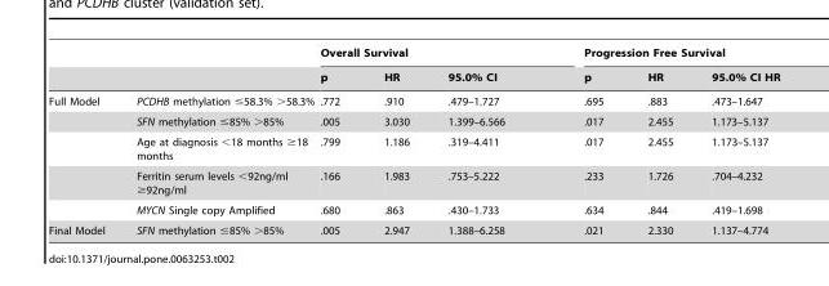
<table><thead><tr><td rowspan="2"></td><td rowspan="2"></td><td colspan="3">Overall Survival</td><td colspan="3">Progression Free Survival</td></tr><tr><td>p</td><td>HR</td><td>95.0% CI</td><td>p</td><td>HR</td><td>95.0% CI HR</td></tr></thead><tbody><tr><td rowspan="5">Full Model</td><td>PCDHB methylation ≤58.3% &gt;58.3%</td><td>.772</td><td>.910</td><td>.479–1.727</td><td>.695</td><td>.883</td><td>.473–1.647</td></tr><tr><td>SFN methylation ≤85% &gt;85%</td><td>.005</td><td>3.030</td><td>1.399–6.566</td><td>.017</td><td>2.455</td><td>1.173–5.137</td></tr><tr><td>Age at diagnosis &lt;18 months ≥18 months</td><td>.799</td><td>1.186</td><td>.319–4.411</td><td>.017</td><td>2.455</td><td>1.173–5.137</td></tr><tr><td>Ferritin serum levels &lt;92ng/ml ≥92ng/ml</td><td>.166</td><td>1.983</td><td>.753–5.222</td><td>.233</td><td>1.726</td><td>.704–4.232</td></tr><tr><td>MYCN Single copy Amplified</td><td>.680</td><td>.863</td><td>.430–1.733</td><td>.634</td><td>.844</td><td>.419–1.698</td></tr><tr><td>Final Model</td><td>SFN methylation ≤85% &gt;85%</td><td>.005</td><td>2.947</td><td>1.388–6.258</td><td>.021</td><td>2.330</td><td>1.137–4.774</td></tr></tbody></table>